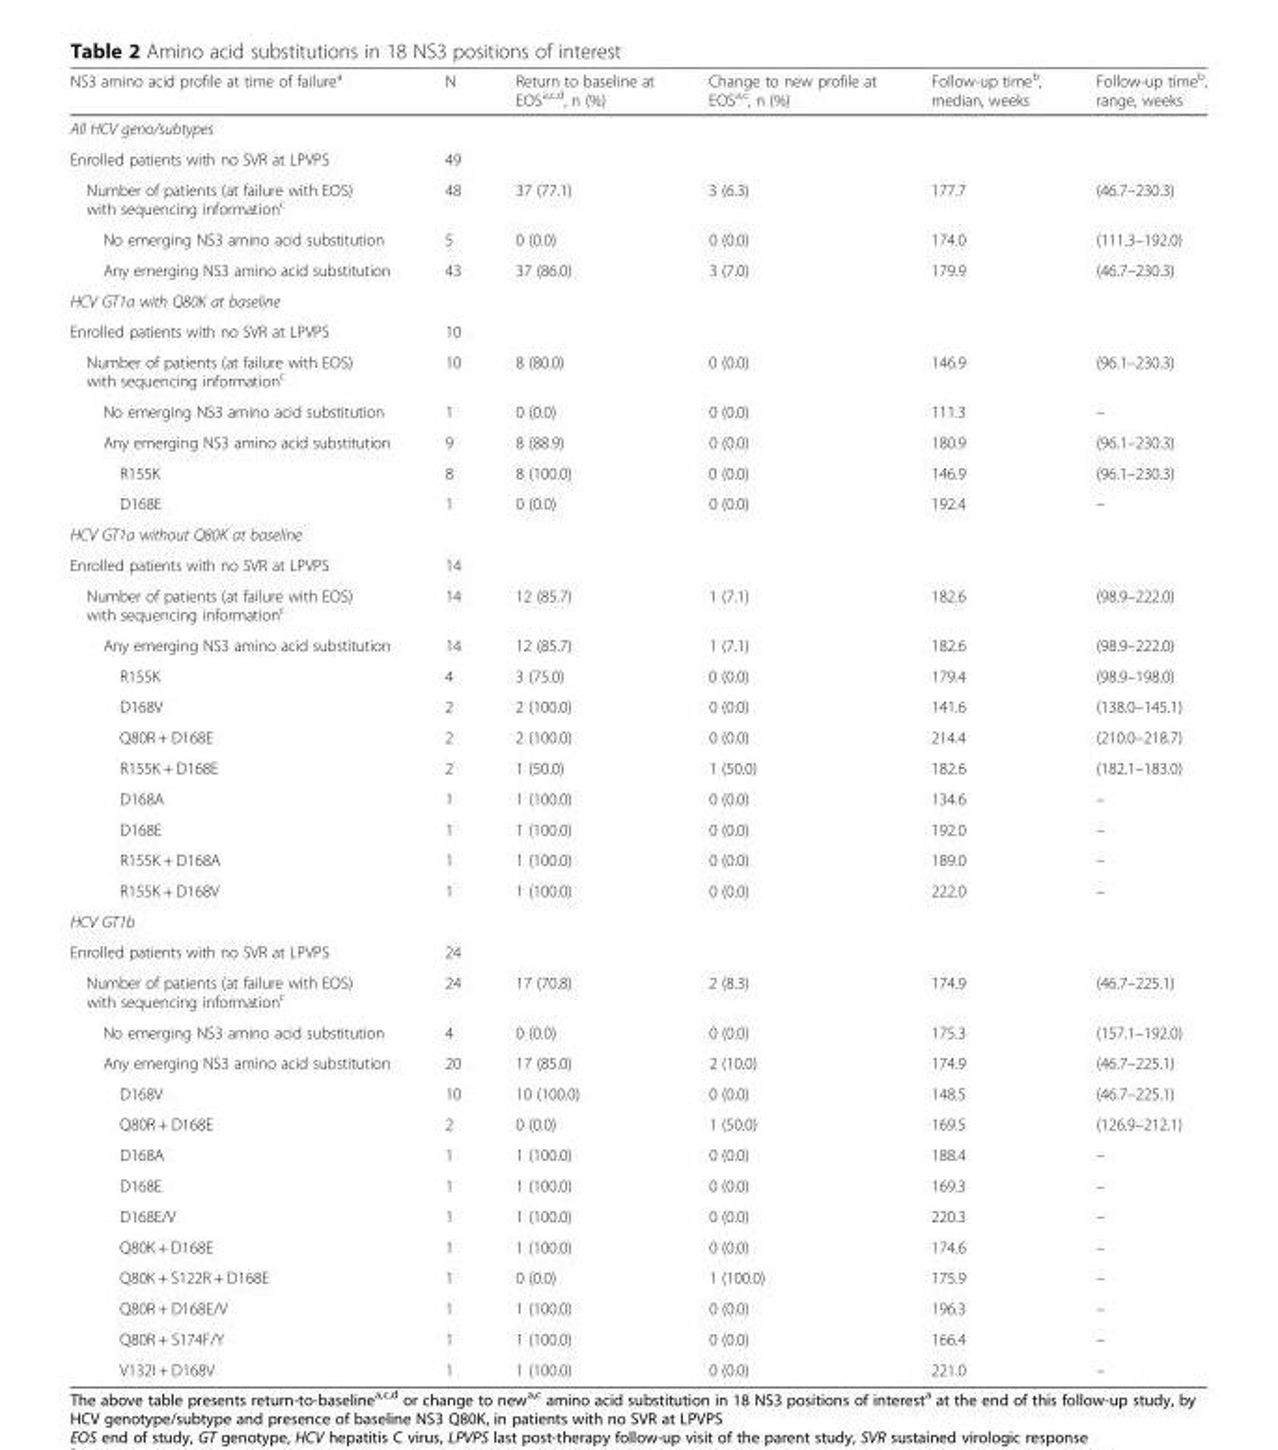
<table><thead><tr><td>NS3 amino acid profile at time of failure<sup>a</sup></td><td>N</td><td>Return to baseline at EOS<sup>a,c,d</sup>, n (%)</td><td>Change to new profile at EOS<sup>a,c</sup>, n (%)</td><td>Follow-up time<sup>b</sup>, median, weeks</td><td>Follow-up time<sup>b</sup>, range, weeks</td></tr></thead><tbody><tr><td colspan="6">All HCV geno/subtypes</td></tr><tr><td>Enrolled patients with no SVR at LPVPS</td><td>49</td><td></td><td></td><td></td><td></td></tr><tr><td>Number of patients (at failure with EOS) with sequencing information<sup>c</sup></td><td>48</td><td>37 (77.1)</td><td>3 (6.3)</td><td>177.7</td><td>(46.7–230.3)</td></tr><tr><td>No emerging NS3 amino acid substitution</td><td>5</td><td>0 (0.0)</td><td>0 (0.0)</td><td>174.0</td><td>(111.3–192.0)</td></tr><tr><td>Any emerging NS3 amino acid substitution</td><td>43</td><td>37 (86.0)</td><td>3 (7.0)</td><td>179.9</td><td>(46.7–230.3)</td></tr><tr><td colspan="6">HCV GT1a with Q80K at baseline</td></tr><tr><td>Enrolled patients with no SVR at LPVPS</td><td>10</td><td></td><td></td><td></td><td></td></tr><tr><td>Number of patients (at failure with EOS) with sequencing information<sup>c</sup></td><td>10</td><td>8 (80.0)</td><td>0 (0.0)</td><td>146.9</td><td>(96.1–230.3)</td></tr><tr><td>No emerging NS3 amino acid substitution</td><td>1</td><td>0 (0.0)</td><td>0 (0.0)</td><td>111.3</td><td>–</td></tr><tr><td>Any emerging NS3 amino acid substitution</td><td>9</td><td>8 (88.9)</td><td>0 (0.0)</td><td>180.9</td><td>(96.1–230.3)</td></tr><tr><td>R155K</td><td>8</td><td>8 (100.0)</td><td>0 (0.0)</td><td>146.9</td><td>(96.1–230.3)</td></tr><tr><td>D168E</td><td>1</td><td>0 (0.0)</td><td>0 (0.0)</td><td>192.4</td><td>–</td></tr><tr><td colspan="6">HCV GT1a without Q80K at baseline</td></tr><tr><td>Enrolled patients with no SVR at LPVPS</td><td>14</td><td></td><td></td><td></td><td></td></tr><tr><td>Number of patients (at failure with EOS) with sequencing information<sup>c</sup></td><td>14</td><td>12 (85.7)</td><td>1 (7.1)</td><td>182.6</td><td>(98.9–222.0)</td></tr><tr><td>Any emerging NS3 amino acid substitution</td><td>14</td><td>12 (85.7)</td><td>1 (7.1)</td><td>182.6</td><td>(98.9–222.0)</td></tr><tr><td>R155K</td><td>4</td><td>3 (75.0)</td><td>0 (0.0)</td><td>179.4</td><td>(98.9–198.0)</td></tr><tr><td>D168V</td><td>2</td><td>2 (100.0)</td><td>0 (0.0)</td><td>141.6</td><td>(138.0–145.1)</td></tr><tr><td>Q80R + D168E</td><td>2</td><td>2 (100.0)</td><td>0 (0.0)</td><td>214.4</td><td>(210.0–218.7)</td></tr><tr><td>R155K + D168E</td><td>2</td><td>1 (50.0)</td><td>1 (50.0)</td><td>182.6</td><td>(182.1–183.0)</td></tr><tr><td>D168A</td><td>1</td><td>1 (100.0)</td><td>0 (0.0)</td><td>134.6</td><td>–</td></tr><tr><td>D168E</td><td>1</td><td>1 (100.0)</td><td>0 (0.0)</td><td>192.0</td><td>–</td></tr><tr><td>R155K + D168A</td><td>1</td><td>1 (100.0)</td><td>0 (0.0)</td><td>189.0</td><td>–</td></tr><tr><td>R155K + D168V</td><td>1</td><td>1 (100.0)</td><td>0 (0.0)</td><td>222.0</td><td>–</td></tr><tr><td colspan="6">HCV GT1b</td></tr><tr><td>Enrolled patients with no SVR at LPVPS</td><td>24</td><td></td><td></td><td></td><td></td></tr><tr><td>Number of patients (at failure with EOS) with sequencing information<sup>c</sup></td><td>24</td><td>17 (70.8)</td><td>2 (8.3)</td><td>174.9</td><td>(46.7–225.1)</td></tr><tr><td>No emerging NS3 amino acid substitution</td><td>4</td><td>0 (0.0)</td><td>0 (0.0)</td><td>175.3</td><td>(157.1–192.0)</td></tr><tr><td>Any emerging NS3 amino acid substitution</td><td>20</td><td>17 (85.0)</td><td>2 (10.0)</td><td>174.9</td><td>(46.7–225.1)</td></tr><tr><td>D168V</td><td>10</td><td>10 (100.0)</td><td>0 (0.0)</td><td>148.5</td><td>(46.7–225.1)</td></tr><tr><td>Q80R + D168E</td><td>2</td><td>0 (0.0)</td><td>1 (50.0)</td><td>169.5</td><td>(126.9–212.1)</td></tr><tr><td>D168A</td><td>1</td><td>1 (100.0)</td><td>0 (0.0)</td><td>188.4</td><td>–</td></tr><tr><td>D168E</td><td>1</td><td>1 (100.0)</td><td>0 (0.0)</td><td>169.3</td><td>–</td></tr><tr><td>D168E/V</td><td>1</td><td>1 (100.0)</td><td>0 (0.0)</td><td>220.3</td><td>–</td></tr><tr><td>Q80K + D168E</td><td>1</td><td>1 (100.0)</td><td>0 (0.0)</td><td>174.6</td><td>–</td></tr><tr><td>Q80K + S122R + D168E</td><td>1</td><td>0 (0.0)</td><td>1 (100.0)</td><td>175.9</td><td>–</td></tr><tr><td>Q80R + D168E/V</td><td>1</td><td>1 (100.0)</td><td>0 (0.0)</td><td>196.3</td><td>–</td></tr><tr><td>Q80R + S174F/Y</td><td>1</td><td>1 (100.0)</td><td>0 (0.0)</td><td>166.4</td><td>–</td></tr><tr><td>V132I + D168V</td><td>1</td><td>1 (100.0)</td><td>0 (0.0)</td><td>221.0</td><td>–</td></tr></tbody></table>